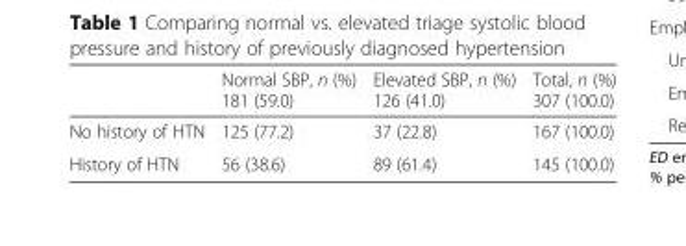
<table><thead><tr><td></td><td>Normal SBP, n (%) 181 (59.0)</td><td>Elevated SBP, n (%) 126 (41.0)</td><td>Total, n (%) 307 (100.0)</td></tr></thead><tbody><tr><td>No history of HTN</td><td>125 (77.2)</td><td>37 (22.8)</td><td>167 (100.0)</td></tr><tr><td>History of HTN</td><td>56 (38.6)</td><td>89 (61.4)</td><td>145 (100.0)</td></tr></tbody></table>